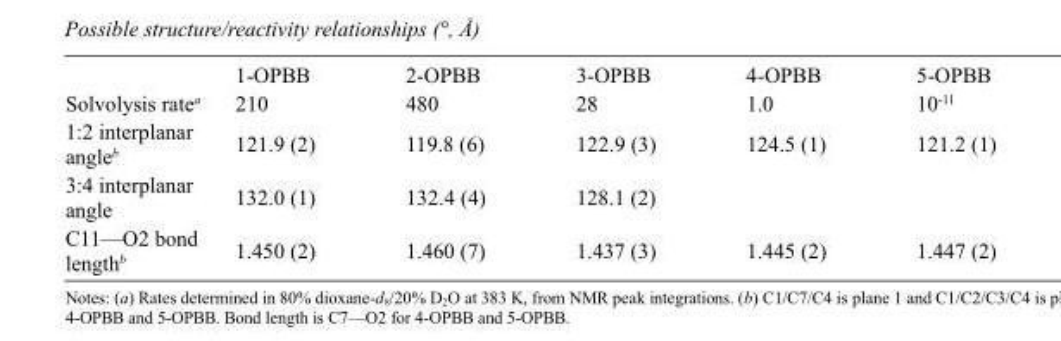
<table><thead><tr><td></td><td>1-OPBB</td><td>2-OPBB</td><td>3-OPBB</td><td>4-OPBB</td><td>5-OPBB</td></tr></thead><tbody><tr><td>Solvolysis ratea</td><td>210</td><td>480</td><td>28</td><td>1.0</td><td>10<sup>-11</sup></td></tr><tr><td>1:2 interplanar angleb</td><td>121.9 (2)</td><td>119.8 (6)</td><td>122.9 (3)</td><td>124.5 (1)</td><td>121.2 (1)</td></tr><tr><td>3:4 interplanar angle</td><td>132.0 (1)</td><td>132.4 (4)</td><td>128.1 (2)</td><td></td><td></td></tr><tr><td>C11—O2 bond lengthb</td><td>1.450 (2)</td><td>1.460 (7)</td><td>1.437 (3)</td><td>1.445 (2)</td><td>1.447 (2)</td></tr></tbody></table>